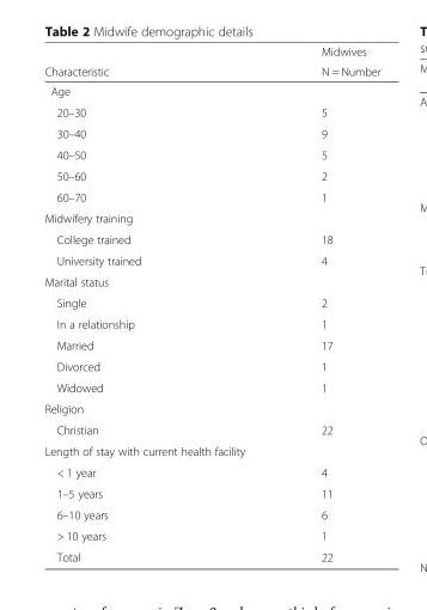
<table><thead><tr><td rowspan="2">Characteristic</td><td rowspan="2">Midwives N = Number</td></tr><tr></tr></thead><tbody><tr><td colspan="2">Age</td></tr><tr><td>20–30</td><td>5</td></tr><tr><td>30–40</td><td>9</td></tr><tr><td>40–50</td><td>5</td></tr><tr><td>50–60</td><td>2</td></tr><tr><td>60–70</td><td>1</td></tr><tr><td colspan="2">Midwifery training</td></tr><tr><td>College trained</td><td>18</td></tr><tr><td>University trained</td><td>4</td></tr><tr><td colspan="2">Marital status</td></tr><tr><td>Single</td><td>2</td></tr><tr><td>In a relationship</td><td>1</td></tr><tr><td>Married</td><td>17</td></tr><tr><td>Divorced</td><td>1</td></tr><tr><td>Widowed</td><td>1</td></tr><tr><td colspan="2">Religion</td></tr><tr><td>Christian</td><td>22</td></tr><tr><td colspan="2">Length of stay with current health facility</td></tr><tr><td>&lt; 1 year</td><td>4</td></tr><tr><td>1–5 years</td><td>11</td></tr><tr><td>6–10 years</td><td>6</td></tr><tr><td>&gt; 10 years</td><td>1</td></tr><tr><td>Total</td><td>22</td></tr></tbody></table>